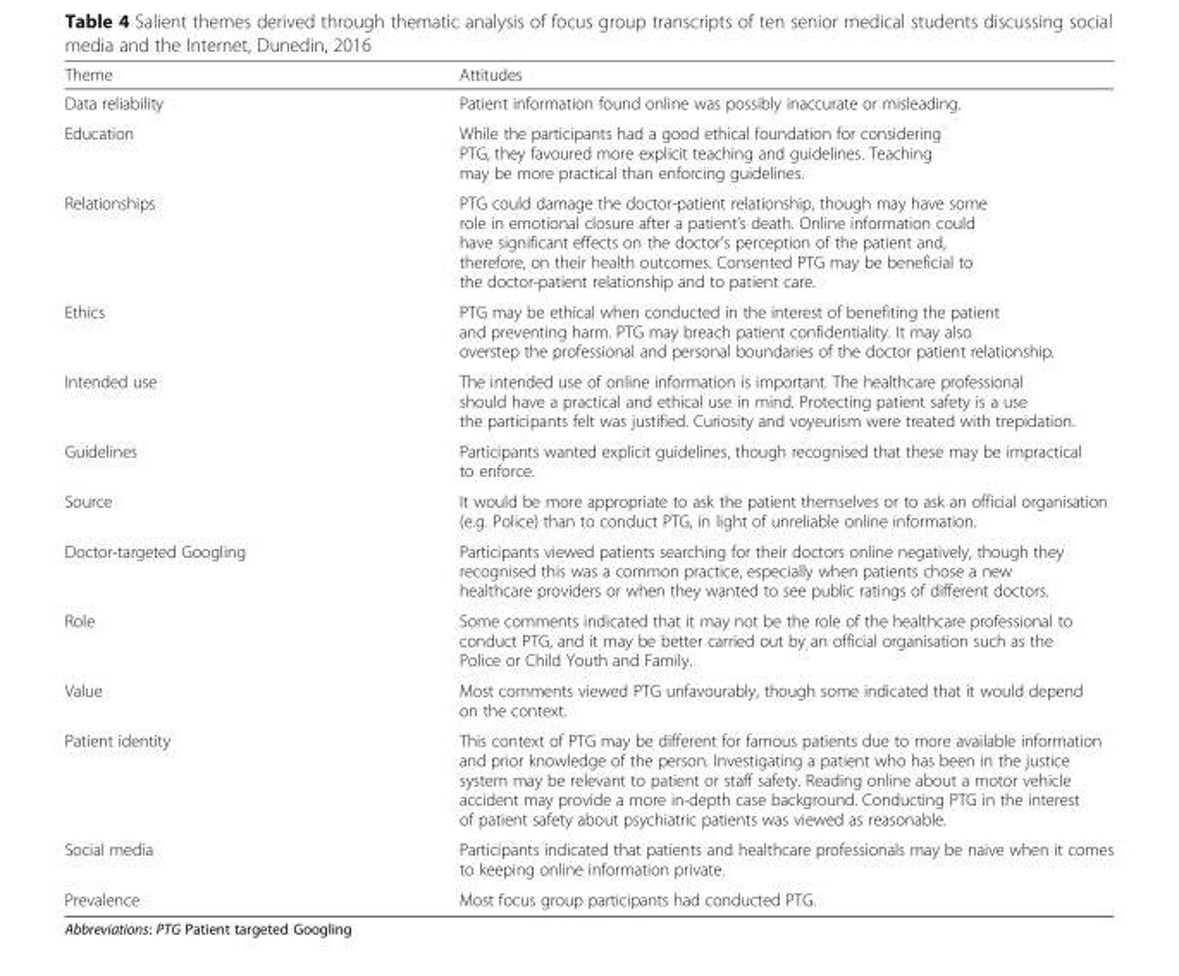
<table><thead><tr><td>Theme</td><td>Attitudes</td></tr></thead><tbody><tr><td>Data reliability</td><td>Patient information found online was possibly inaccurate or misleading.</td></tr><tr><td>Education</td><td>While the participants had a good ethical foundation for considering PTG, they favoured more explicit teaching and guidelines. Teaching may be more practical than enforcing guidelines.</td></tr><tr><td>Relationships</td><td>PTG could damage the doctor-patient relationship, though may have some role in emotional closure after a patient’s death. Online information could have significant effects on the doctor’s perception of the patient and, therefore, on their health outcomes. Consented PTG may be beneficial to the doctor-patient relationship and to patient care.</td></tr><tr><td>Ethics</td><td>PTG may be ethical when conducted in the interest of benefiting the patient and preventing harm. PTG may breach patient confidentiality. It may also overstep the professional and personal boundaries of the doctor patient relationship.</td></tr><tr><td>Intended use</td><td>The intended use of online information is important. The healthcare professional should have a practical and ethical use in mind. Protecting patient safety is a use the participants felt was justified. Curiosity and voyeurism were treated with trepidation.</td></tr><tr><td>Guidelines</td><td>Participants wanted explicit guidelines, though recognised that these may be impractical to enforce.</td></tr><tr><td>Source</td><td>It would be more appropriate to ask the patient themselves or to ask an official organisation (e.g. Police) than to conduct PTG, in light of unreliable online information.</td></tr><tr><td>Doctor-targeted Googling</td><td>Participants viewed patients searching for their doctors online negatively, though they recognised this was a common practice, especially when patients chose a new healthcare providers or when they wanted to see public ratings of different doctors.</td></tr><tr><td>Role</td><td>Some comments indicated that it may not be the role of the healthcare professional to conduct PTG, and it may be better carried out by an official organisation such as the Police or Child Youth and Family.</td></tr><tr><td>Value</td><td>Most comments viewed PTG unfavourably, though some indicated that it would depend on the context.</td></tr><tr><td>Patient identity</td><td>This context of PTG may be different for famous patients due to more available information and prior knowledge of the person. Investigating a patient who has been in the justice system may be relevant to patient or staff safety. Reading online about a motor vehicle accident may provide a more in-depth case background. Conducting PTG in the interest of patient safety about psychiatric patients was viewed as reasonable.</td></tr><tr><td>Social media</td><td>Participants indicated that patients and healthcare professionals may be naive when it comes to keeping online information private.</td></tr><tr><td>Prevalence</td><td>Most focus group participants had conducted PTG.</td></tr></tbody></table>